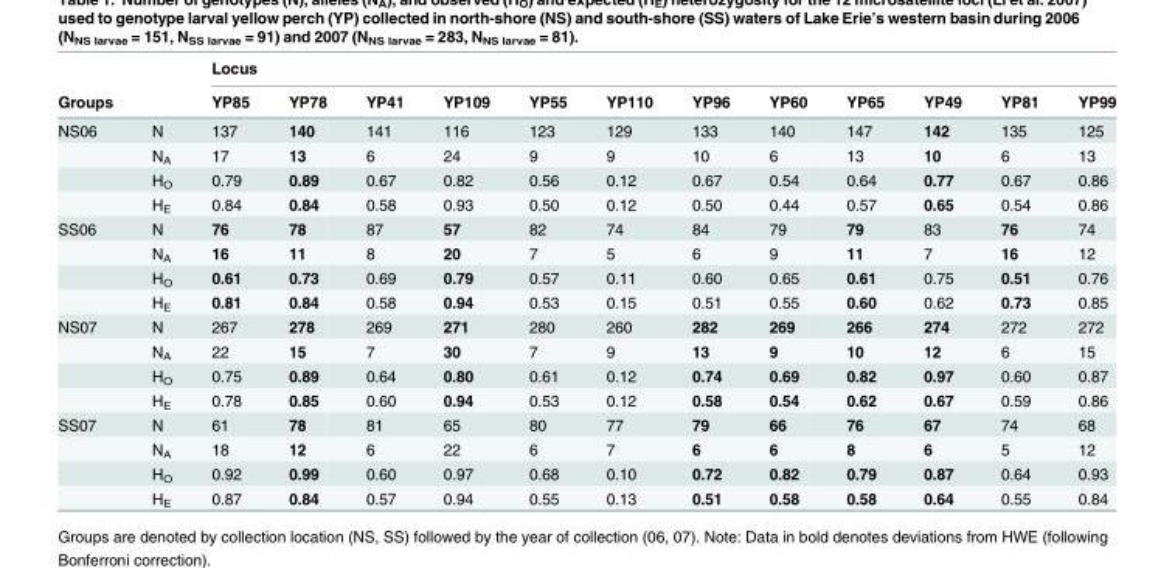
<table><thead><tr><td rowspan="2">Groups</td><td rowspan="2"></td><td colspan="12">Locus</td></tr><tr><td>YP85</td><td>YP78</td><td>YP41</td><td>YP109</td><td>YP55</td><td>YP110</td><td>YP96</td><td>YP60</td><td>YP65</td><td>YP49</td><td>YP81</td><td>YP99</td></tr></thead><tbody><tr><td rowspan="4">NS06</td><td>N</td><td>137</td><td>140</td><td>141</td><td>116</td><td>123</td><td>129</td><td>133</td><td>140</td><td>147</td><td>142</td><td>135</td><td>125</td></tr><tr><td>N<sub>A</sub></td><td>17</td><td>13</td><td>6</td><td>24</td><td>9</td><td>9</td><td>10</td><td>6</td><td>13</td><td>10</td><td>6</td><td>13</td></tr><tr><td>H<sub>O</sub></td><td>0.79</td><td>0.89</td><td>0.67</td><td>0.82</td><td>0.56</td><td>0.12</td><td>0.67</td><td>0.54</td><td>0.64</td><td>0.77</td><td>0.67</td><td>0.86</td></tr><tr><td>H<sub>E</sub></td><td>0.84</td><td>0.84</td><td>0.58</td><td>0.93</td><td>0.50</td><td>0.12</td><td>0.50</td><td>0.44</td><td>0.57</td><td>0.65</td><td>0.54</td><td>0.86</td></tr><tr><td rowspan="4">SS06</td><td>N</td><td>76</td><td>78</td><td>87</td><td>57</td><td>82</td><td>74</td><td>84</td><td>79</td><td>79</td><td>83</td><td>76</td><td>74</td></tr><tr><td>N<sub>A</sub></td><td>16</td><td>11</td><td>8</td><td>20</td><td>7</td><td>5</td><td>6</td><td>9</td><td>11</td><td>7</td><td>16</td><td>12</td></tr><tr><td>H<sub>O</sub></td><td>0.61</td><td>0.73</td><td>0.69</td><td>0.79</td><td>0.57</td><td>0.11</td><td>0.60</td><td>0.65</td><td>0.61</td><td>0.75</td><td>0.51</td><td>0.76</td></tr><tr><td>H<sub>E</sub></td><td>0.81</td><td>0.84</td><td>0.58</td><td>0.94</td><td>0.53</td><td>0.15</td><td>0.51</td><td>0.55</td><td>0.60</td><td>0.62</td><td>0.73</td><td>0.85</td></tr><tr><td rowspan="4">NS07</td><td>N</td><td>267</td><td>278</td><td>269</td><td>271</td><td>280</td><td>260</td><td>282</td><td>269</td><td>266</td><td>274</td><td>272</td><td>272</td></tr><tr><td>N<sub>A</sub></td><td>22</td><td>15</td><td>7</td><td>30</td><td>7</td><td>9</td><td>13</td><td>9</td><td>10</td><td>12</td><td>6</td><td>15</td></tr><tr><td>H<sub>O</sub></td><td>0.75</td><td>0.89</td><td>0.64</td><td>0.80</td><td>0.61</td><td>0.12</td><td>0.74</td><td>0.69</td><td>0.82</td><td>0.97</td><td>0.60</td><td>0.87</td></tr><tr><td>H<sub>E</sub></td><td>0.78</td><td>0.85</td><td>0.60</td><td>0.94</td><td>0.53</td><td>0.12</td><td>0.58</td><td>0.54</td><td>0.62</td><td>0.67</td><td>0.59</td><td>0.86</td></tr><tr><td rowspan="4">SS07</td><td>N</td><td>61</td><td>78</td><td>81</td><td>65</td><td>80</td><td>77</td><td>79</td><td>66</td><td>76</td><td>67</td><td>74</td><td>68</td></tr><tr><td>N<sub>A</sub></td><td>18</td><td>12</td><td>6</td><td>22</td><td>6</td><td>7</td><td>6</td><td>6</td><td>8</td><td>6</td><td>5</td><td>12</td></tr><tr><td>H<sub>O</sub></td><td>0.92</td><td>0.99</td><td>0.60</td><td>0.97</td><td>0.68</td><td>0.10</td><td>0.72</td><td>0.82</td><td>0.79</td><td>0.87</td><td>0.64</td><td>0.93</td></tr><tr><td>H<sub>E</sub></td><td>0.87</td><td>0.84</td><td>0.57</td><td>0.94</td><td>0.55</td><td>0.13</td><td>0.51</td><td>0.58</td><td>0.58</td><td>0.64</td><td>0.55</td><td>0.84</td></tr></tbody></table>